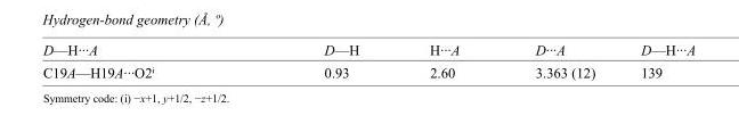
<table><tbody><tr><td>D—H···A</td><td>D—H</td><td>H···A</td><td>D···A</td><td>D—H···A</td></tr><tr><td>C19A—H19A···O2<sup>i</sup></td><td>0.93</td><td>2.60</td><td>3.363 (12)</td><td>139</td></tr></tbody></table>